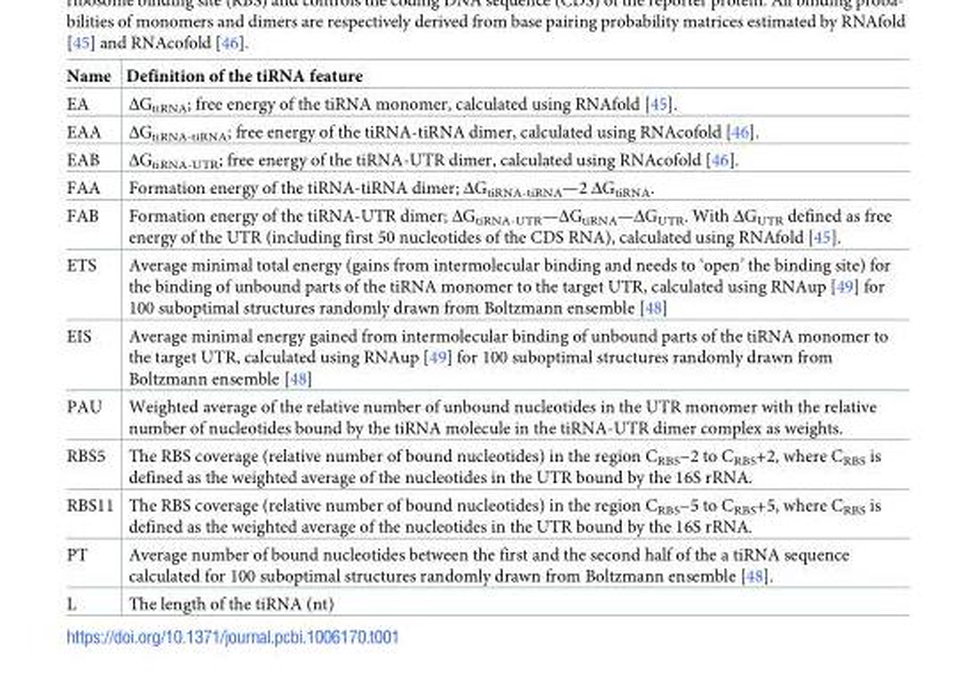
<table><thead><tr><td>Name</td><td>Definition of the tiRNA feature</td></tr></thead><tbody><tr><td>EA</td><td>ΔG<sub>tiRNA</sub>; free energy of the tiRNA monomer, calculated using RNAfold [45].</td></tr><tr><td>EAA</td><td>ΔG<sub>tiRNA-tiRNA</sub>; free energy of the tiRNA-tiRNA dimer, calculated using RNAcofold [46].</td></tr><tr><td>EAB</td><td>ΔG<sub>tiRNA-UTR</sub>; free energy of the tiRNA-UTR dimer, calculated using RNAcofold [46].</td></tr><tr><td>FAA</td><td>Formation energy of the tiRNA-tiRNA dimer; ΔG<sub>tiRNA-tiRNA</sub>—2 ΔG<sub>tiRNA</sub>.</td></tr><tr><td>FAB</td><td>Formation energy of the tiRNA-UTR dimer; ΔG<sub>tiRNA-UTR</sub>—ΔG<sub>tiRNA</sub>—ΔG<sub>UTR</sub>. With ΔG<sub>UTR</sub> defined as free energy of the UTR (including first 50 nucleotides of the CDS RNA), calculated using RNAfold [45].</td></tr><tr><td>ETS</td><td>Average minimal total energy (gains from intermolecular binding and needs to ‘open’ the binding site) for the binding of unbound parts of the tiRNA monomer to the target UTR, calculated using RNAup [49] for 100 suboptimal structures randomly drawn from Boltzmann ensemble [48]</td></tr><tr><td>EIS</td><td>Average minimal energy gained from intermolecular binding of unbound parts of the tiRNA monomer to the target UTR, calculated using RNAup [49] for 100 suboptimal structures randomly drawn from Boltzmann ensemble [48]</td></tr><tr><td>PAU</td><td>Weighted average of the relative number of unbound nucleotides in the UTR monomer with the relative number of nucleotides bound by the tiRNA molecule in the tiRNA-UTR dimer complex as weights.</td></tr><tr><td>RBS5</td><td>The RBS coverage (relative number of bound nucleotides) in the region C<sub>RBS</sub>−2 to C<sub>RBS</sub>+2, where C<sub>RBS</sub> is defined as the weighted average of the nucleotides in the UTR bound by the 16S rRNA.</td></tr><tr><td>RBS11</td><td>The RBS coverage (relative number of bound nucleotides) in the region C<sub>RBS</sub>−5 to C<sub>RBS</sub>+5, where C<sub>RBS</sub> is defined as the weighted average of the nucleotides in the UTR bound by the 16S rRNA.</td></tr><tr><td>PT</td><td>Average number of bound nucleotides between the first and the second half of the a tiRNA sequence calculated for 100 suboptimal structures randomly drawn from Boltzmann ensemble [48].</td></tr><tr><td>L</td><td>The length of the tiRNA (nt)</td></tr></tbody></table>